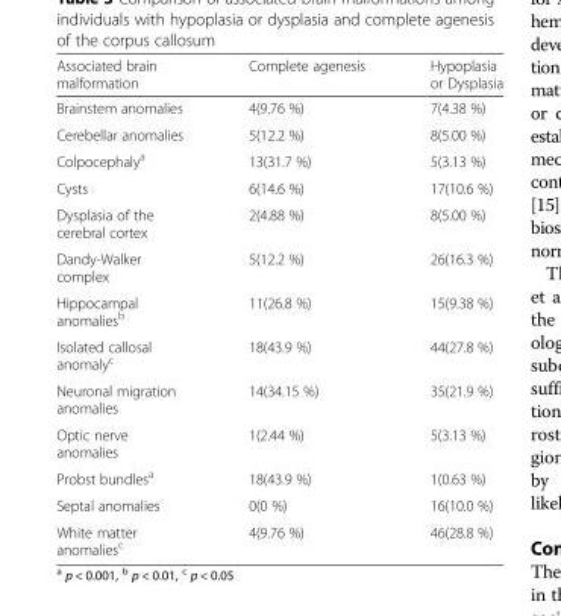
<table><thead><tr><td>Associated brain malformation</td><td>Complete agenesis</td><td>Hypoplasia or Dysplasia</td></tr></thead><tbody><tr><td>Brainstem anomalies</td><td>4(9.76 %)</td><td>7(4.38 %)</td></tr><tr><td>Cerebellar anomalies</td><td>5(12.2 %)</td><td>8(5.00 %)</td></tr><tr><td>Colpocephaly<sup>a</sup></td><td>13(31.7 %)</td><td>5(3.13 %)</td></tr><tr><td>Cysts</td><td>6(14.6 %)</td><td>17(10.6 %)</td></tr><tr><td>Dysplasia of the cerebral cortex</td><td>2(4.88 %)</td><td>8(5.00 %)</td></tr><tr><td>Dandy-Walker complex</td><td>5(12.2 %)</td><td>26(16.3 %)</td></tr><tr><td>Hippocampal anomalies<sup>b</sup></td><td>11(26.8 %)</td><td>15(9.38 %)</td></tr><tr><td>Isolated callosal anomaly<sup>c</sup></td><td>18(43.9 %)</td><td>44(27.8 %)</td></tr><tr><td>Neuronal migration anomalies</td><td>14(34.15 %)</td><td>35(21.9 %)</td></tr><tr><td>Optic nerve anomalies</td><td>1(2.44 %)</td><td>5(3.13 %)</td></tr><tr><td>Probst bundles<sup>a</sup></td><td>18(43.9 %)</td><td>1(0.63 %)</td></tr><tr><td>Septal anomalies</td><td>0(0 %)</td><td>16(10.0 %)</td></tr><tr><td>White matter anomalies<sup>c</sup></td><td>4(9.76 %)</td><td>46(28.8 %)</td></tr></tbody></table>